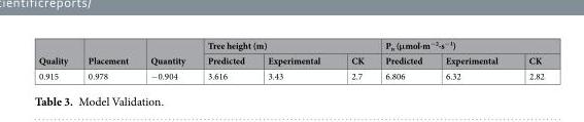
<table><thead><tr><td rowspan="2">Quality</td><td rowspan="2">Placement</td><td rowspan="2">Quantity</td><td colspan="3">Tree height (m)</td><td colspan="3">P<sub>n</sub> (μmol·m<sup>−2</sup>·s<sup>−1</sup>)</td></tr><tr><td>Predicted</td><td>Experimental</td><td>CK</td><td>Predicted</td><td>Experimental</td><td>CK</td></tr></thead><tbody><tr><td>0.915</td><td>0.978</td><td>−0.904</td><td>3.616</td><td>3.43</td><td>2.7</td><td>6.806</td><td>6.32</td><td>2.82</td></tr></tbody></table>